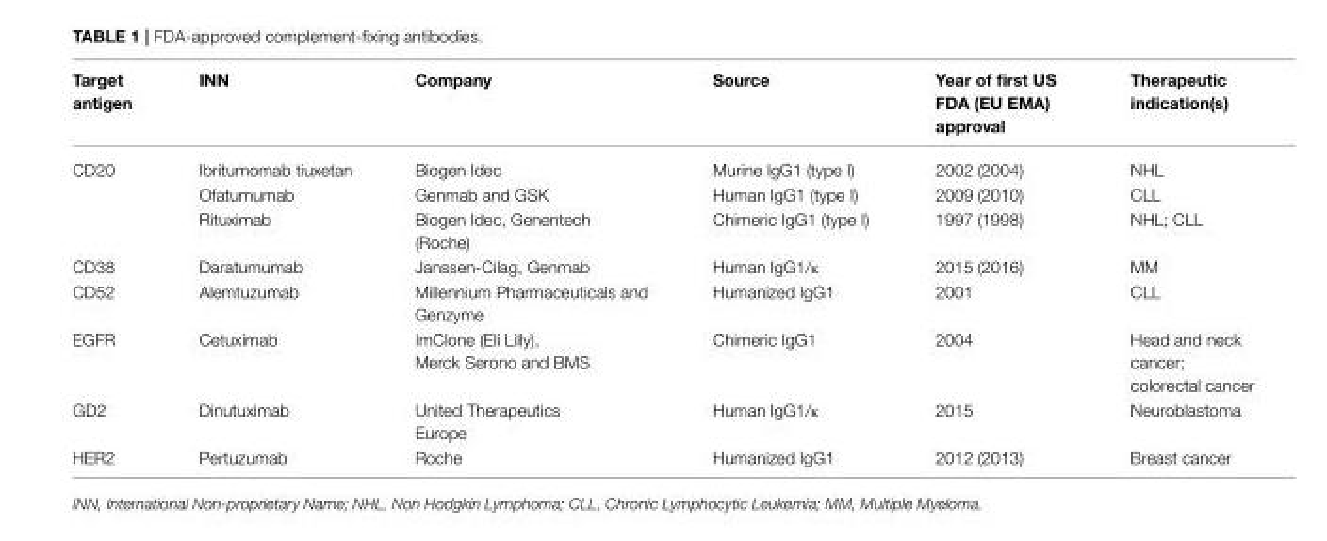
<table><thead><tr><td>Target antigen</td><td>INN</td><td>Company</td><td>Source</td><td>Year of first US FDA (EU EMA) approval</td><td>Therapeutic indication(s)</td></tr></thead><tbody><tr><td rowspan="3">CD20</td><td>Ibritumomab tiuxetan</td><td>Biogen Idec</td><td>Murine IgG1 (type I)</td><td>2002 (2004)</td><td>NHL</td></tr><tr><td>Ofatumumab</td><td>Genmab and GSK</td><td>Human IgG1 (type I)</td><td>2009 (2010)</td><td>CLL</td></tr><tr><td>Rituximab</td><td>Biogen Idec, Genentech (Roche)</td><td>Chimeric IgG1 (type I)</td><td>1997 (1998)</td><td>NHL; CLL</td></tr><tr><td>CD38</td><td>Daratumumab</td><td>Janssen-Cilag, Genmab</td><td>Human IgG1/κ</td><td>2015 (2016)</td><td>MM</td></tr><tr><td>CD52</td><td>Alemtuzumab</td><td>Millennium Pharmaceuticals and Genzyme</td><td>Humanized IgG1</td><td>2001</td><td>CLL</td></tr><tr><td>EGFR</td><td>Cetuximab</td><td>ImClone (Eli Lilly), Merck Serono and BMS</td><td>Chimeric IgG1</td><td>2004</td><td>Head and neck cancer; colorectal cancer</td></tr><tr><td>GD2</td><td>Dinutuximab</td><td>United Therapeutics Europe</td><td>Human IgG1/κ</td><td>2015</td><td>Neuroblastoma</td></tr><tr><td>HER2</td><td>Pertuzumab</td><td>Roche</td><td>Humanized IgG1</td><td>2012 (2013)</td><td>Breast cancer</td></tr></tbody></table>